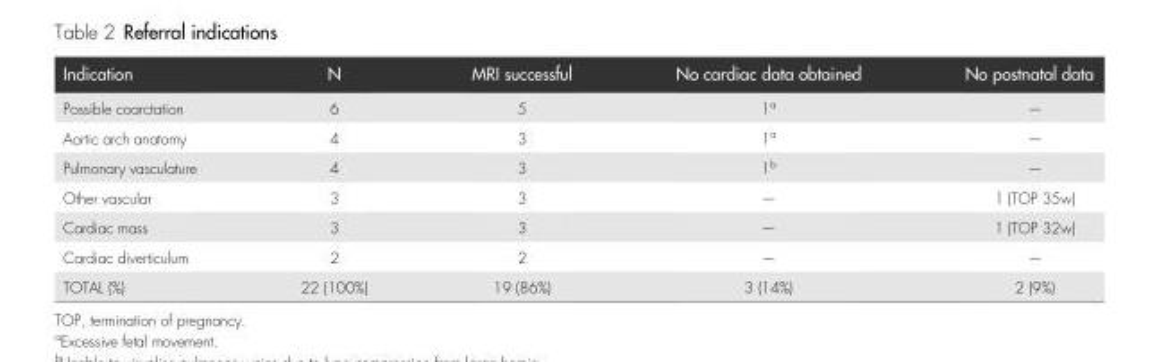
<table><thead><tr><td>Indication</td><td>N</td><td>MRI successful</td><td>No cardiac data obtained</td><td>No postnatal data</td></tr></thead><tbody><tr><td>Possible coarctation</td><td>6</td><td>5</td><td>1<sup>a</sup></td><td>—</td></tr><tr><td>Aortic arch anatomy</td><td>4</td><td>3</td><td>1<sup>a</sup></td><td>—</td></tr><tr><td>Pulmonary vasculature</td><td>4</td><td>3</td><td>1<sup>b</sup></td><td>—</td></tr><tr><td>Other vascular</td><td>3</td><td>3</td><td>—</td><td>1 (TOP 35w)</td></tr><tr><td>Cardiac mass</td><td>3</td><td>3</td><td>—</td><td>1 (TOP 32w)</td></tr><tr><td>Cardiac diverticulum</td><td>2</td><td>2</td><td>—</td><td>—</td></tr><tr><td>TOTAL (%)</td><td>22 (100%)</td><td>19 (86%)</td><td>3 (14%)</td><td>2 (9%)</td></tr></tbody></table>